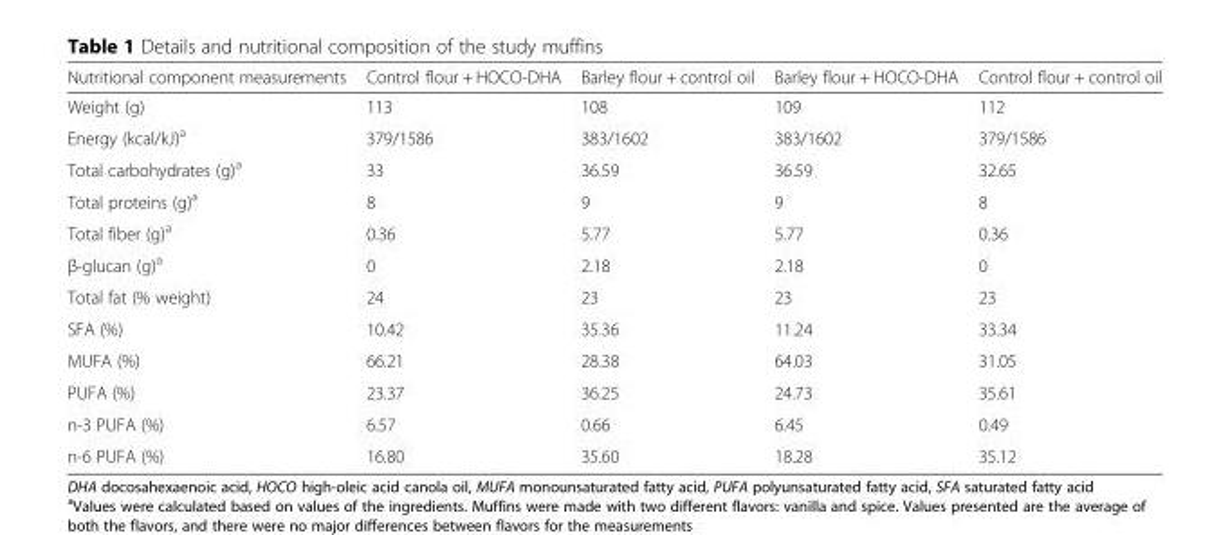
<table><thead><tr><td>Nutritional component measurements</td><td>Control flour + HOCO-DHA</td><td>Barley flour + control oil</td><td>Barley flour + HOCO-DHA</td><td>Control flour + control oil</td></tr></thead><tbody><tr><td>Weight (g)</td><td>113</td><td>108</td><td>109</td><td>112</td></tr><tr><td>Energy (kcal/kJ)<sup>a</sup></td><td>379/1586</td><td>383/1602</td><td>383/1602</td><td>379/1586</td></tr><tr><td>Total carbohydrates (g)<sup>a</sup></td><td>33</td><td>36.59</td><td>36.59</td><td>32.65</td></tr><tr><td>Total proteins (g)<sup>a</sup></td><td>8</td><td>9</td><td>9</td><td>8</td></tr><tr><td>Total fiber (g)<sup>a</sup></td><td>0.36</td><td>5.77</td><td>5.77</td><td>0.36</td></tr><tr><td>β-glucan (g)<sup>a</sup></td><td>0</td><td>2.18</td><td>2.18</td><td>0</td></tr><tr><td>Total fat (% weight)</td><td>24</td><td>23</td><td>23</td><td>23</td></tr><tr><td>SFA (%)</td><td>10.42</td><td>35.36</td><td>11.24</td><td>33.34</td></tr><tr><td>MUFA (%)</td><td>66.21</td><td>28.38</td><td>64.03</td><td>31.05</td></tr><tr><td>PUFA (%)</td><td>23.37</td><td>36.25</td><td>24.73</td><td>35.61</td></tr><tr><td>n-3 PUFA (%)</td><td>6.57</td><td>0.66</td><td>6.45</td><td>0.49</td></tr><tr><td>n-6 PUFA (%)</td><td>16.80</td><td>35.60</td><td>18.28</td><td>35.12</td></tr></tbody></table>